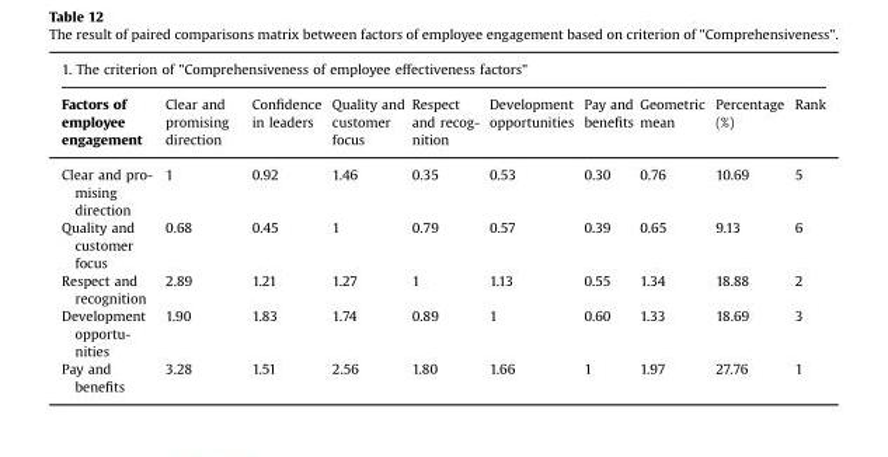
<table><thead><tr><td colspan="10">1. The criterion of &quot;Comprehensiveness of employee effectiveness factors&quot;</td></tr><tr><td>Factors of employee engagement</td><td>Clear and promising direction</td><td>Confidence in leaders</td><td>Quality and customer focus</td><td>Respect and recog- nition</td><td>Development opportunities</td><td>Pay and benefits</td><td>Geometric mean</td><td>Percentage (%)</td><td>Rank</td></tr></thead><tbody><tr><td>Clear and pro- mising direction</td><td>1</td><td>0.92</td><td>1.46</td><td>0.35</td><td>0.53</td><td>0.30</td><td>0.76</td><td>10.69</td><td>5</td></tr><tr><td>Quality and customer focus</td><td>0.68</td><td>0.45</td><td>1</td><td>0.79</td><td>0.57</td><td>0.39</td><td>0.65</td><td>9.13</td><td>6</td></tr><tr><td>Respect and recognition</td><td>2.89</td><td>1.21</td><td>1.27</td><td>1</td><td>1.13</td><td>0.55</td><td>1.34</td><td>18.88</td><td>2</td></tr><tr><td>Development opportu- nities</td><td>1.90</td><td>1.83</td><td>1.74</td><td>0.89</td><td>1</td><td>0.60</td><td>1.33</td><td>18.69</td><td>3</td></tr><tr><td>Pay and benefits</td><td>3.28</td><td>1.51</td><td>2.56</td><td>1.80</td><td>1.66</td><td>1</td><td>1.97</td><td>27.76</td><td>1</td></tr></tbody></table>